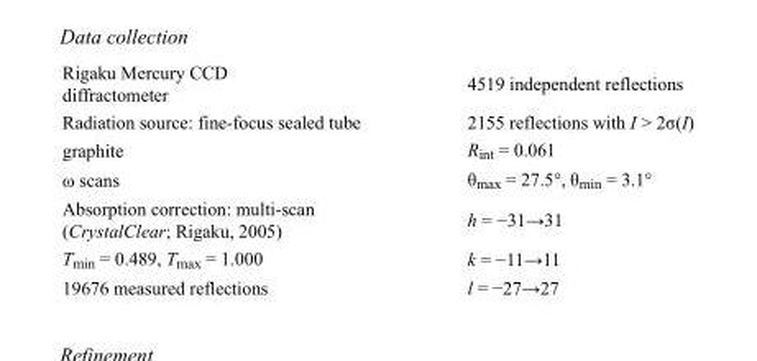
<table><tbody><tr><td>Rigaku Mercury CCD diffractometer</td><td>4519 independent reflections</td></tr><tr><td>Radiation source: fine-focus sealed tube</td><td>2155 reflections with I &gt; 2σ(I)</td></tr><tr><td>graphite</td><td>R<sub>int</sub> = 0.061</td></tr><tr><td>ω scans</td><td>θ<sub>max</sub> = 27.5°, θ<sub>min</sub> = 3.1°</td></tr><tr><td>Absorption correction: multi-scan (CrystalClear; Rigaku, 2005)</td><td>h = −31→31</td></tr><tr><td>T<sub>min</sub> = 0.489, T<sub>max</sub> = 1.000</td><td>k = −11→11</td></tr><tr><td>19676 measured reflections</td><td>l = −27→27</td></tr></tbody></table>